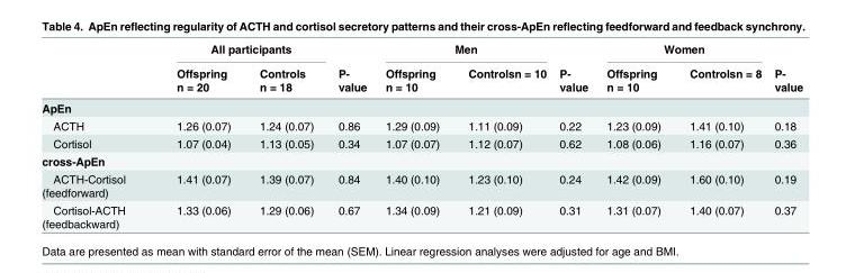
<table><thead><tr><td rowspan="2"></td><td colspan="2">All participants</td><td rowspan="2">P- value</td><td colspan="2">Men</td><td rowspan="2">P- value</td><td colspan="2">Women</td><td rowspan="2">P- value</td></tr><tr><td>Offspring n = 20</td><td>Controls n = 18</td><td>Offspring n = 10</td><td>Controlsn = 10</td><td>Offspring n = 10</td><td>Controlsn = 8</td></tr></thead><tbody><tr><td colspan="10">ApEn</td></tr><tr><td>ACTH</td><td>1.26 (0.07)</td><td>1.24 (0.07)</td><td>0.86</td><td>1.29 (0.09)</td><td>1.11 (0.09)</td><td>0.22</td><td>1.23 (0.09)</td><td>1.41 (0.10)</td><td>0.18</td></tr><tr><td>Cortisol</td><td>1.07 (0.04)</td><td>1.13 (0.05)</td><td>0.34</td><td>1.07 (0.07)</td><td>1.12 (0.07)</td><td>0.62</td><td>1.08 (0.06)</td><td>1.16 (0.07)</td><td>0.36</td></tr><tr><td colspan="10">cross-ApEn</td></tr><tr><td>ACTH-Cortisol (feedforward)</td><td>1.41 (0.07)</td><td>1.39 (0.07)</td><td>0.84</td><td>1.40 (0.10)</td><td>1.23 (0.10)</td><td>0.24</td><td>1.42 (0.09)</td><td>1.60 (0.10)</td><td>0.19</td></tr><tr><td>Cortisol-ACTH (feedbackward)</td><td>1.33 (0.06)</td><td>1.29 (0.06)</td><td>0.67</td><td>1.34 (0.09)</td><td>1.21 (0.09)</td><td>0.31</td><td>1.31 (0.07)</td><td>1.40 (0.07)</td><td>0.37</td></tr></tbody></table>